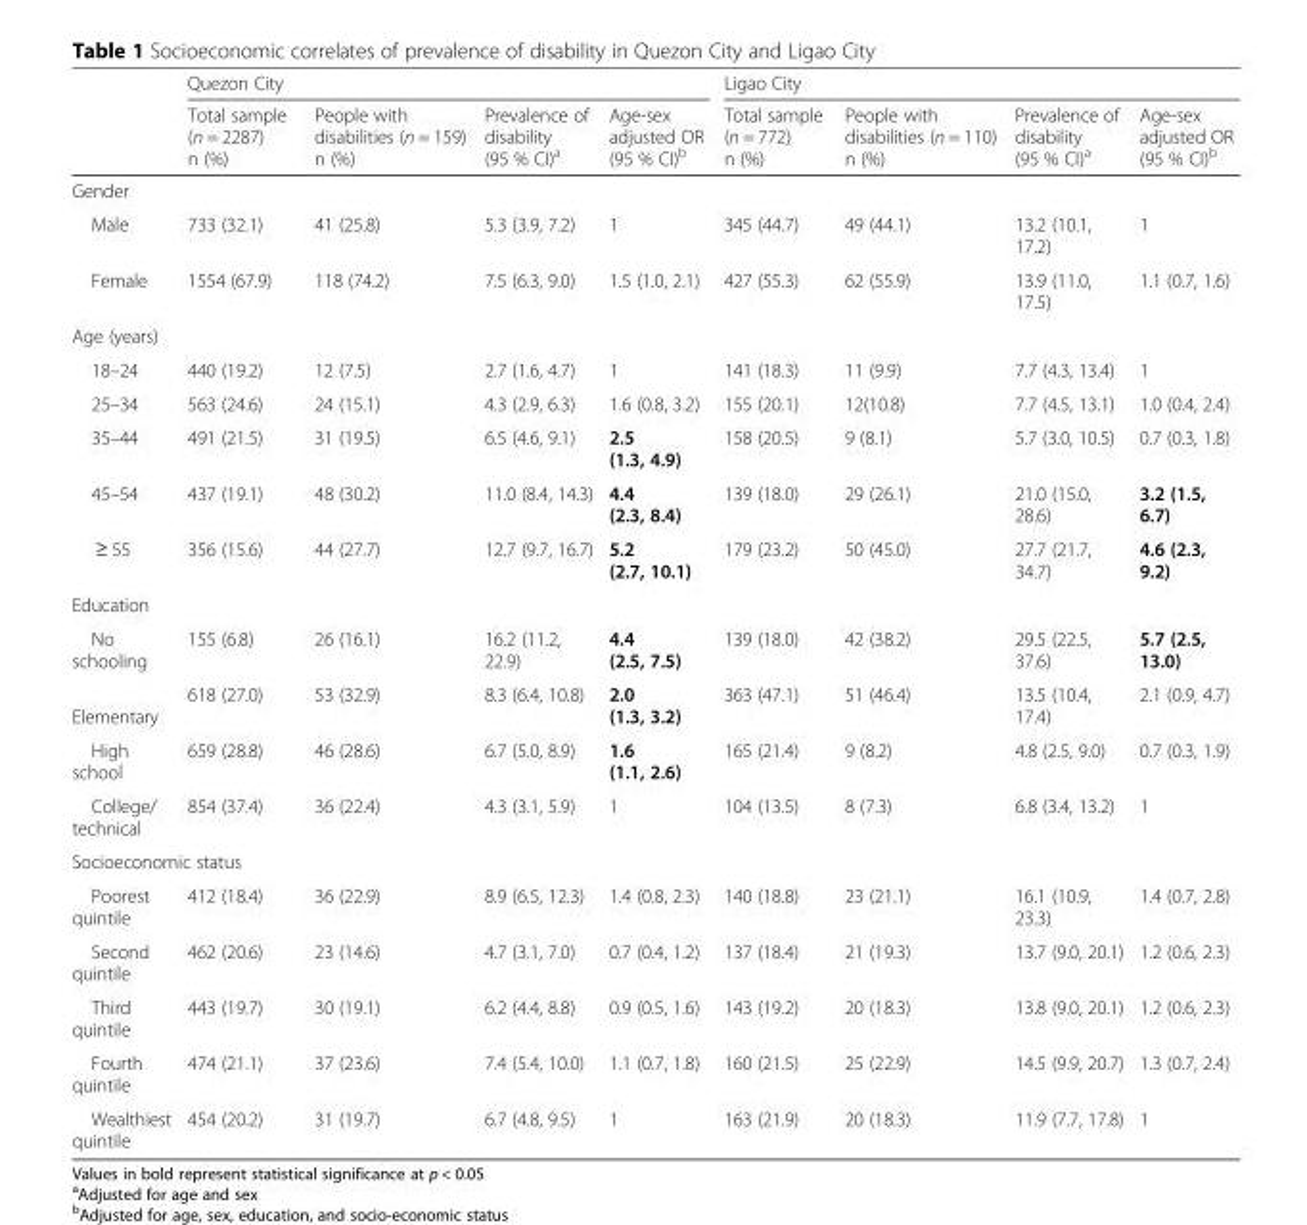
<table><thead><tr><td rowspan="2"></td><td colspan="4">Quezon City</td><td colspan="4">Ligao City</td></tr><tr><td>Total sample (n = 2287) n (%)</td><td>People with disabilities (n = 159) n (%)</td><td>Prevalence of disability (95 % CI)<sup>a</sup></td><td>Age-sex adjusted OR (95 % CI)<sup>b</sup></td><td>Total sample (n = 772) n (%)</td><td>People with disabilities (n = 110) n (%)</td><td>Prevalence of disability (95 % CI)<sup>a</sup></td><td>Age-sex adjusted OR (95 % CI)<sup>b</sup></td></tr></thead><tbody><tr><td colspan="9">Gender</td></tr><tr><td>Male</td><td>733 (32.1)</td><td>41 (25.8)</td><td>5.3 (3.9, 7.2)</td><td>1</td><td>345 (44.7)</td><td>49 (44.1)</td><td>13.2 (10.1, 17.2)</td><td>1</td></tr><tr><td>Female</td><td>1554 (67.9)</td><td>118 (74.2)</td><td>7.5 (6.3, 9.0)</td><td>1.5 (1.0, 2.1)</td><td>427 (55.3)</td><td>62 (55.9)</td><td>13.9 (11.0, 17.5)</td><td>1.1 (0.7, 1.6)</td></tr><tr><td colspan="9">Age (years)</td></tr><tr><td>18–24</td><td>440 (19.2)</td><td>12 (7.5)</td><td>2.7 (1.6, 4.7)</td><td>1</td><td>141 (18.3)</td><td>11 (9.9)</td><td>7.7 (4.3, 13.4)</td><td>1</td></tr><tr><td>25–34</td><td>563 (24.6)</td><td>24 (15.1)</td><td>4.3 (2.9, 6.3)</td><td>1.6 (0.8, 3.2)</td><td>155 (20.1)</td><td>12(10.8)</td><td>7.7 (4.5, 13.1)</td><td>1.0 (0.4, 2.4)</td></tr><tr><td>35–44</td><td>491 (21.5)</td><td>31 (19.5)</td><td>6.5 (4.6, 9.1)</td><td>2.5 (1.3, 4.9)</td><td>158 (20.5)</td><td>9 (8.1)</td><td>5.7 (3.0, 10.5)</td><td>0.7 (0.3, 1.8)</td></tr><tr><td>45–54</td><td>437 (19.1)</td><td>48 (30.2)</td><td>11.0 (8.4, 14.3)</td><td>4.4 (2.3, 8.4)</td><td>139 (18.0)</td><td>29 (26.1)</td><td>21.0 (15.0, 28.6)</td><td>3.2 (1.5, 6.7)</td></tr><tr><td>≥ 55</td><td>356 (15.6)</td><td>44 (27.7)</td><td>12.7 (9.7, 16.7)</td><td>5.2 (2.7, 10.1)</td><td>179 (23.2)</td><td>50 (45.0)</td><td>27.7 (21.7, 34.7)</td><td>4.6 (2.3, 9.2)</td></tr><tr><td colspan="9">Education</td></tr><tr><td>No schooling</td><td>155 (6.8)</td><td>26 (16.1)</td><td>16.2 (11.2, 22.9)</td><td>4.4 (2.5, 7.5)</td><td>139 (18.0)</td><td>42 (38.2)</td><td>29.5 (22.5, 37.6)</td><td>5.7 (2.5, 13.0)</td></tr><tr><td>Elementary</td><td>618 (27.0)</td><td>53 (32.9)</td><td>8.3 (6.4, 10.8)</td><td>2.0 (1.3, 3.2)</td><td>363 (47.1)</td><td>51 (46.4)</td><td>13.5 (10.4, 17.4)</td><td>2.1 (0.9, 4.7)</td></tr><tr><td>High school</td><td>659 (28.8)</td><td>46 (28.6)</td><td>6.7 (5.0, 8.9)</td><td>1.6 (1.1, 2.6)</td><td>165 (21.4)</td><td>9 (8.2)</td><td>4.8 (2.5, 9.0)</td><td>0.7 (0.3, 1.9)</td></tr><tr><td>College/ technical</td><td>854 (37.4)</td><td>36 (22.4)</td><td>4.3 (3.1, 5.9)</td><td>1</td><td>104 (13.5)</td><td>8 (7.3)</td><td>6.8 (3.4, 13.2)</td><td>1</td></tr><tr><td colspan="9">Socioeconomic status</td></tr><tr><td>Poorest quintile</td><td>412 (18.4)</td><td>36 (22.9)</td><td>8.9 (6.5, 12.3)</td><td>1.4 (0.8, 2.3)</td><td>140 (18.8)</td><td>23 (21.1)</td><td>16.1 (10.9, 23.3)</td><td>1.4 (0.7, 2.8)</td></tr><tr><td>Second quintile</td><td>462 (20.6)</td><td>23 (14.6)</td><td>4.7 (3.1, 7.0)</td><td>0.7 (0.4, 1.2)</td><td>137 (18.4)</td><td>21 (19.3)</td><td>13.7 (9.0, 20.1)</td><td>1.2 (0.6, 2.3)</td></tr><tr><td>Third quintile</td><td>443 (19.7)</td><td>30 (19.1)</td><td>6.2 (4.4, 8.8)</td><td>0.9 (0.5, 1.6)</td><td>143 (19.2)</td><td>20 (18.3)</td><td>13.8 (9.0, 20.1)</td><td>1.2 (0.6, 2.3)</td></tr><tr><td>Fourth quintile</td><td>474 (21.1)</td><td>37 (23.6)</td><td>7.4 (5.4, 10.0)</td><td>1.1 (0.7, 1.8)</td><td>160 (21.5)</td><td>25 (22.9)</td><td>14.5 (9.9, 20.7)</td><td>1.3 (0.7, 2.4)</td></tr><tr><td>Wealthiest quintile</td><td>454 (20.2)</td><td>31 (19.7)</td><td>6.7 (4.8, 9.5)</td><td>1</td><td>163 (21.9)</td><td>20 (18.3)</td><td>11.9 (7.7, 17.8)</td><td>1</td></tr></tbody></table>